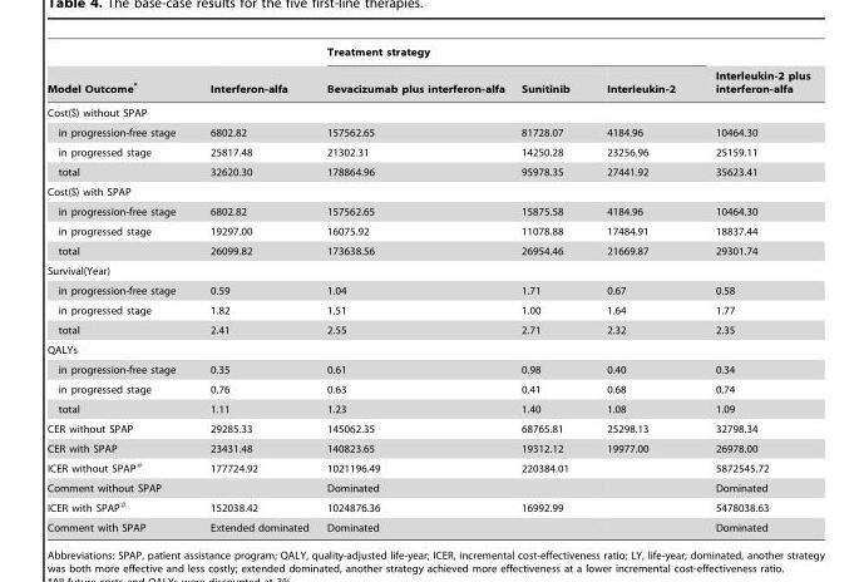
<table><thead><tr><td rowspan="2">Model Outcome*</td><td rowspan="2">Interferon-alfa</td><td colspan="3">Treatment strategy</td><td rowspan="2">Interleukin-2 plus interferon-alfa</td></tr><tr><td>Bevacizumab plus interferon-alfa</td><td>Sunitinib</td><td>Interleukin-2</td></tr></thead><tbody><tr><td colspan="6">Cost($) without SPAP</td></tr><tr><td>in progression-free stage</td><td>6802.82</td><td>157562.65</td><td>81728.07</td><td>4184.96</td><td>10464.30</td></tr><tr><td>in progressed stage</td><td>25817.48</td><td>21302.31</td><td>14250.28</td><td>23256.96</td><td>25159.11</td></tr><tr><td>total</td><td>32620.30</td><td>178864.96</td><td>95978.35</td><td>27441.92</td><td>35623.41</td></tr><tr><td colspan="6">Cost($) with SPAP</td></tr><tr><td>in progression-free stage</td><td>6802.82</td><td>157562.65</td><td>15875.58</td><td>4184.96</td><td>10464.30</td></tr><tr><td>in progressed stage</td><td>19297.00</td><td>16075.92</td><td>11078.88</td><td>17484.91</td><td>18837.44</td></tr><tr><td>total</td><td>26099.82</td><td>173638.56</td><td>26954.46</td><td>21669.87</td><td>29301.74</td></tr><tr><td colspan="6">Survival(Year)</td></tr><tr><td>in progression-free stage</td><td>0.59</td><td>1.04</td><td>1.71</td><td>0.67</td><td>0.58</td></tr><tr><td>in progressed stage</td><td>1.82</td><td>1.51</td><td>1.00</td><td>1.64</td><td>1.77</td></tr><tr><td>total</td><td>2.41</td><td>2.55</td><td>2.71</td><td>2.32</td><td>2.35</td></tr><tr><td colspan="6">QALYs</td></tr><tr><td>in progression-free stage</td><td>0.35</td><td>0.61</td><td>0.98</td><td>0.40</td><td>0.34</td></tr><tr><td>in progressed stage</td><td>0.76</td><td>0.63</td><td>0.41</td><td>0.68</td><td>0.74</td></tr><tr><td>total</td><td>1.11</td><td>1.23</td><td>1.40</td><td>1.08</td><td>1.09</td></tr><tr><td>CER without SPAP</td><td>29285.33</td><td>145062.35</td><td>68765.81</td><td>25298.13</td><td>32798.34</td></tr><tr><td>CER with SPAP</td><td>23431.48</td><td>140823.65</td><td>19312.12</td><td>19977.00</td><td>26978.00</td></tr><tr><td>ICER without SPAP#</td><td>177724.92</td><td>1021196.49</td><td>220384.01</td><td></td><td>5872545.72</td></tr><tr><td>Comment without SPAP</td><td></td><td>Dominated</td><td></td><td></td><td>Dominated</td></tr><tr><td>ICER with SPAP#</td><td>152038.42</td><td>1024876.36</td><td>16992.99</td><td></td><td>5478038.63</td></tr><tr><td>Comment with SPAP</td><td>Extended dominated</td><td>Dominated</td><td></td><td></td><td>Dominated</td></tr></tbody></table>